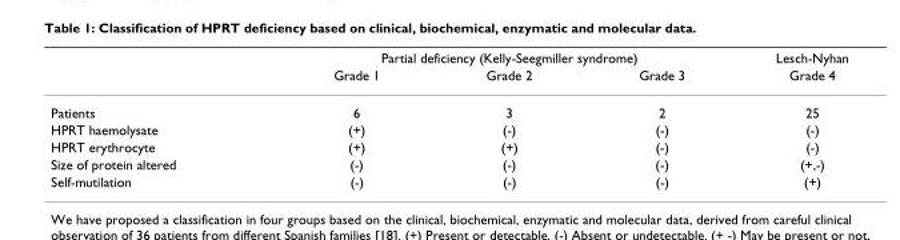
<table><thead><tr><td rowspan="2"></td><td colspan="3">Partial deficiency (Kelly-Seegmiller syndrome)</td><td rowspan="2">Lesch-Nyhan Grade 4</td></tr><tr><td>Grade 1</td><td>Grade 2</td><td>Grade 3</td></tr></thead><tbody><tr><td>Patients</td><td>6</td><td>3</td><td>2</td><td>25</td></tr><tr><td>HPRT haemolysate</td><td>(+)</td><td>(-)</td><td>(-)</td><td>(-)</td></tr><tr><td>HPRT erythrocyte</td><td>(+)</td><td>(+)</td><td>(-)</td><td>(-)</td></tr><tr><td>Size of protein altered</td><td>(-)</td><td>(-)</td><td>(-)</td><td>(+,-)</td></tr><tr><td>Self-mutilation</td><td>(-)</td><td>(-)</td><td>(-)</td><td>(+)</td></tr></tbody></table>